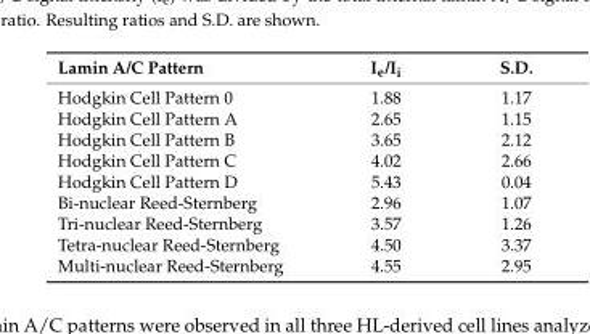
<table><thead><tr><td>Lamin A/C Pattern</td><td>I<sub>e</sub>/I<sub>i</sub></td><td>S.D.</td></tr></thead><tbody><tr><td>Hodgkin Cell Pattern 0</td><td>1.88</td><td>1.17</td></tr><tr><td>Hodgkin Cell Pattern A</td><td>2.65</td><td>1.15</td></tr><tr><td>Hodgkin Cell Pattern B</td><td>3.65</td><td>2.12</td></tr><tr><td>Hodgkin Cell Pattern C</td><td>4.02</td><td>2.66</td></tr><tr><td>Hodgkin Cell Pattern D</td><td>5.43</td><td>0.04</td></tr><tr><td>Bi-nuclear Reed-Sternberg</td><td>2.96</td><td>1.07</td></tr><tr><td>Tri-nuclear Reed-Sternberg</td><td>3.57</td><td>1.26</td></tr><tr><td>Tetra-nuclear Reed-Sternberg</td><td>4.50</td><td>3.37</td></tr><tr><td>Multi-nuclear Reed-Sternberg</td><td>4.55</td><td>2.95</td></tr></tbody></table>